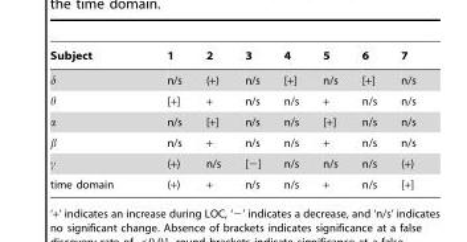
<table><thead><tr><td>Subject</td><td>1</td><td>2</td><td>3</td><td>4</td><td>5</td><td>6</td><td>7</td></tr></thead><tbody><tr><td>d</td><td>n/s</td><td>(+)</td><td>n/s</td><td>[+]</td><td>n/s</td><td>[+]</td><td>n/s</td></tr><tr><td>h</td><td>[+]</td><td>+</td><td>n/s</td><td>n/s</td><td>+</td><td>n/s</td><td>n/s</td></tr><tr><td>a</td><td>n/s</td><td>[+]</td><td>n/s</td><td>n/s</td><td>[+]</td><td>n/s</td><td>n/s</td></tr><tr><td>b</td><td>n/s</td><td>+</td><td>n/s</td><td>n/s</td><td>+</td><td>n/s</td><td>n/s</td></tr><tr><td>c</td><td>(+)</td><td>n/s</td><td>[−]</td><td>n/s</td><td>n/s</td><td>n/s</td><td>(+)</td></tr><tr><td>time domain</td><td>(+)</td><td>+</td><td>n/s</td><td>n/s</td><td>+</td><td>n/s</td><td>[+]</td></tr></tbody></table>